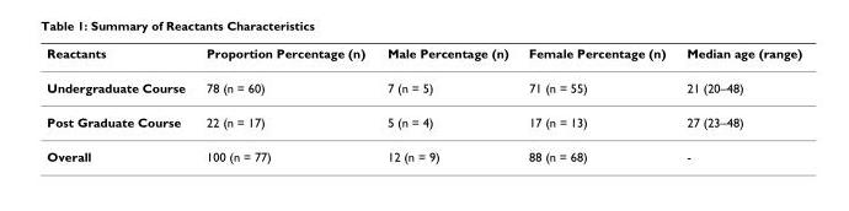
<table><thead><tr><td>Reactants</td><td>Proportion Percentage (n)</td><td>Male Percentage (n)</td><td>Female Percentage (n)</td><td>Median age (range)</td></tr></thead><tbody><tr><td>Undergraduate Course</td><td>78 (n = 60)</td><td>7 (n = 5)</td><td>71 (n = 55)</td><td>21 (20–48)</td></tr><tr><td>Post Graduate Course</td><td>22 (n = 17)</td><td>5 (n = 4)</td><td>17 (n = 13)</td><td>27 (23–48)</td></tr><tr><td>Overall</td><td>100 (n = 77)</td><td>12 (n = 9)</td><td>88 (n = 68)</td><td>-</td></tr></tbody></table>